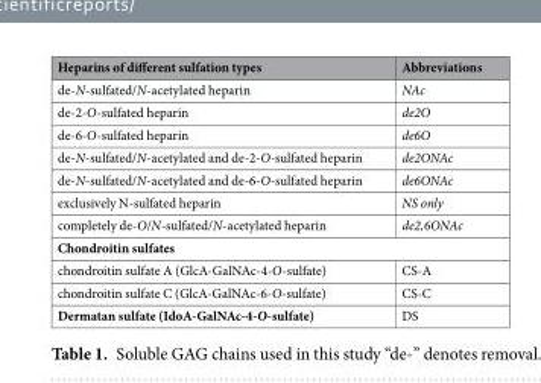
<table><thead><tr><td>Heparins of different sulfation types</td><td>Abbreviations</td></tr></thead><tbody><tr><td>de-N-sulfated/N-acetylated heparin</td><td>NAc</td></tr><tr><td>de-2-O-sulfated heparin</td><td>de2O</td></tr><tr><td>de-6-O-sulfated heparin</td><td>de6O</td></tr><tr><td>de-N-sulfated/N-acetylated and de-2-O-sulfated heparin</td><td>de2ONAc</td></tr><tr><td>de-N-sulfated/N-acetylated and de-6-O-sulfated heparin</td><td>de6ONAc</td></tr><tr><td>exclusively N-sulfated heparin</td><td>NS only</td></tr><tr><td>completely de-O/N-sulfated/N-acetylated heparin</td><td>de2,6ONAc</td></tr><tr><td colspan="2">Chondroitin sulfates</td></tr><tr><td>chondroitin sulfate A (GlcA-GalNAc-4-O-sulfate)</td><td>CS-A</td></tr><tr><td>chondroitin sulfate C (GlcA-GalNAc-6-O-sulfate)</td><td>CS-C</td></tr><tr><td>Dermatan sulfate (IdoA-GalNAc-4-O-sulfate)</td><td>DS</td></tr></tbody></table>